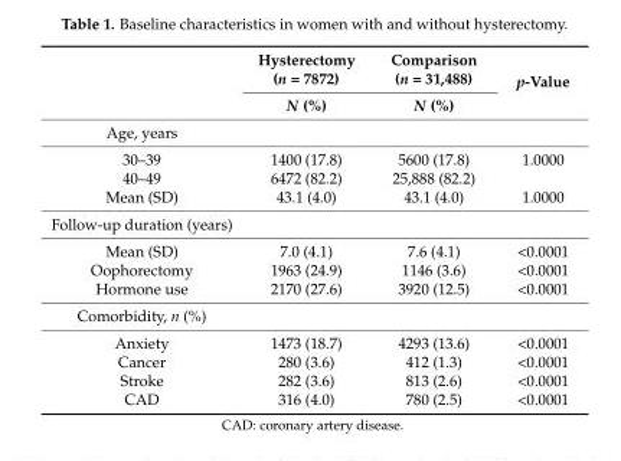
<table><thead><tr><td rowspan="2"></td><td rowspan="2">Hysterectomy (n = 7872) N (%)</td><td rowspan="2">Comparison (n = 31,488) N (%)</td><td rowspan="2">p-Value</td></tr><tr></tr></thead><tbody><tr><td colspan="4">Age, years</td></tr><tr><td>30–39</td><td>1400 (17.8)</td><td>5600 (17.8)</td><td>1.0000</td></tr><tr><td>40–49</td><td>6472 (82.2)</td><td>25,888 (82.2)</td><td></td></tr><tr><td>Mean (SD)</td><td>43.1 (4.0)</td><td>43.1 (4.0)</td><td>1.0000</td></tr><tr><td colspan="4">Follow-up duration (years)</td></tr><tr><td>Mean (SD)</td><td>7.0 (4.1)</td><td>7.6 (4.1)</td><td>&lt;0.0001</td></tr><tr><td>Oophorectomy</td><td>1963 (24.9)</td><td>1146 (3.6)</td><td>&lt;0.0001</td></tr><tr><td>Hormone use</td><td>2170 (27.6)</td><td>3920 (12.5)</td><td>&lt;0.0001</td></tr><tr><td colspan="4">Comorbidity, n (%)</td></tr><tr><td>Anxiety</td><td>1473 (18.7)</td><td>4293 (13.6)</td><td>&lt;0.0001</td></tr><tr><td>Cancer</td><td>280 (3.6)</td><td>412 (1.3)</td><td>&lt;0.0001</td></tr><tr><td>Stroke</td><td>282 (3.6)</td><td>813 (2.6)</td><td>&lt;0.0001</td></tr><tr><td>CAD</td><td>316 (4.0)</td><td>780 (2.5)</td><td>&lt;0.0001</td></tr></tbody></table>